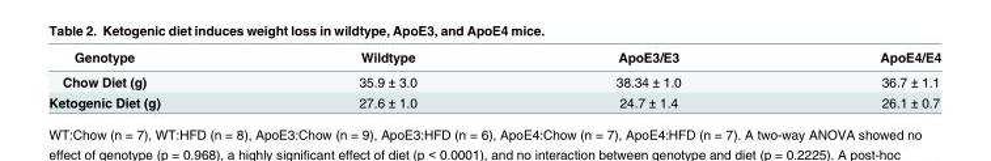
<table><thead><tr><td>Genotype</td><td>Wildtype</td><td>ApoE3/E3</td><td>ApoE4/E4</td></tr></thead><tbody><tr><td>Chow Diet (g)</td><td>35.9 ± 3.0</td><td>38.34 ± 1.0</td><td>36.7 ± 1.1</td></tr><tr><td>Ketogenic Diet (g)</td><td>27.6 ± 1.0</td><td>24.7 ± 1.4</td><td>26.1 ± 0.7</td></tr></tbody></table>